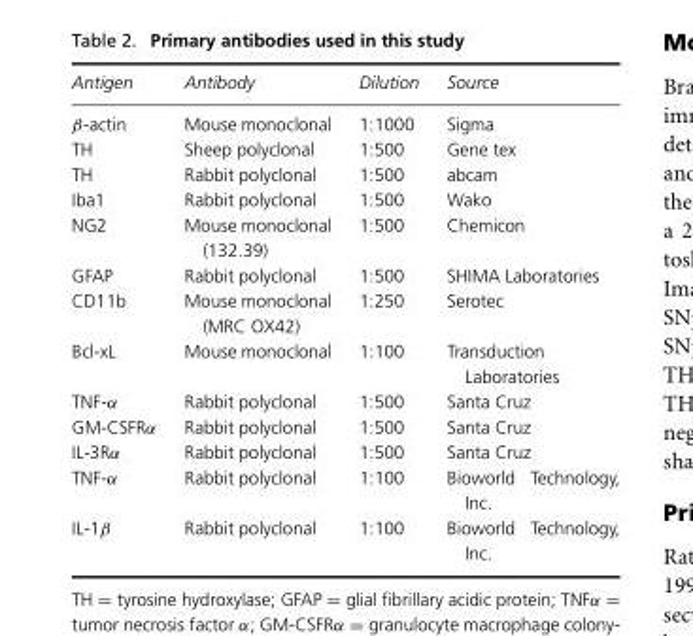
<table><thead><tr><td>Antigen</td><td>Antibody</td><td>Dilution</td><td>Source</td></tr></thead><tbody><tr><td>β-actin</td><td>Mouse monoclonal</td><td>1:1000</td><td>Sigma</td></tr><tr><td>TH</td><td>Sheep polyclonal</td><td>1:500</td><td>Gene tex</td></tr><tr><td>TH</td><td>Rabbit polyclonal</td><td>1:500</td><td>abcam</td></tr><tr><td>Iba1</td><td>Rabbit polyclonal</td><td>1:500</td><td>Wako</td></tr><tr><td>NG2</td><td>Mouse monoclonal (132.39)</td><td>1:500</td><td>Chemicon</td></tr><tr><td>GFAP</td><td>Rabbit polyclonal</td><td>1:500</td><td>SHIMA Laboratories</td></tr><tr><td>CD11b</td><td>Mouse monoclonal (MRC OX42)</td><td>1:250</td><td>Serotec</td></tr><tr><td>Bcl-xL</td><td>Mouse monoclonal</td><td>1:100</td><td>Transduction Laboratories</td></tr><tr><td>TNF-α</td><td>Rabbit polyclonal</td><td>1:500</td><td>Santa Cruz</td></tr><tr><td>GM-CSFRα</td><td>Rabbit polyclonal</td><td>1:500</td><td>Santa Cruz</td></tr><tr><td>IL-3Rα</td><td>Rabbit polyclonal</td><td>1:500</td><td>Santa Cruz</td></tr><tr><td>TNF-α</td><td>Rabbit polyclonal</td><td>1:100</td><td>Bioworld Technology, Inc.</td></tr><tr><td>IL-1β</td><td>Rabbit polyclonal</td><td>1:100</td><td>Bioworld Technology, Inc.</td></tr></tbody></table>